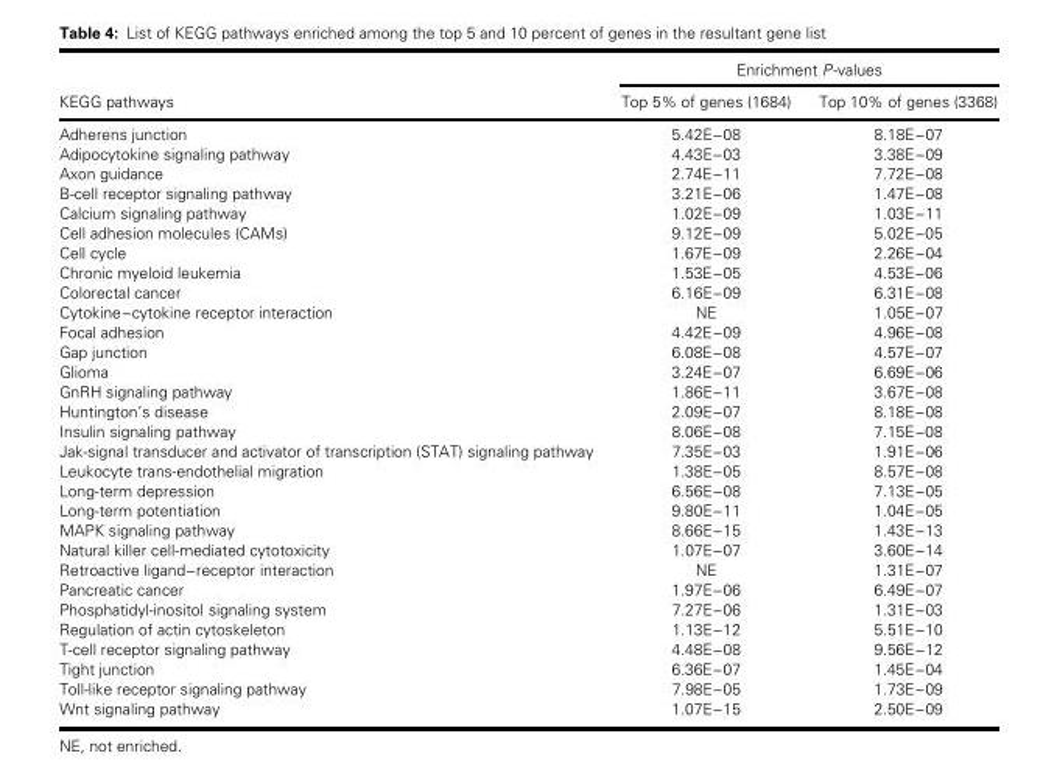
<table><thead><tr><td rowspan="2">KEGG pathways</td><td colspan="2">Enrichment P-values</td></tr><tr><td>Top 5% of genes (1684)</td><td>Top 10% of genes (3368)</td></tr></thead><tbody><tr><td>Adherens junction</td><td>5.42E–08</td><td>8.18E–07</td></tr><tr><td>Adipocytokine signaling pathway</td><td>4.43E–03</td><td>3.38E–09</td></tr><tr><td>Axon guidance</td><td>2.74E–11</td><td>7.72E–08</td></tr><tr><td>B-cell receptor signaling pathway</td><td>3.21E–06</td><td>1.47E–08</td></tr><tr><td>Calcium signaling pathway</td><td>1.02E–09</td><td>1.03E–11</td></tr><tr><td>Cell adhesion molecules (CAMs)</td><td>9.12E–09</td><td>5.02E–05</td></tr><tr><td>Cell cycle</td><td>1.67E–09</td><td>2.26E–04</td></tr><tr><td>Chronic myeloid leukemia</td><td>1.53E–05</td><td>4.53E–06</td></tr><tr><td>Colorectal cancer</td><td>6.16E–09</td><td>6.31E–08</td></tr><tr><td>Cytokine–cytokine receptor interaction</td><td>NE</td><td>1.05E–07</td></tr><tr><td>Focal adhesion</td><td>4.42E–09</td><td>4.96E–08</td></tr><tr><td>Gap junction</td><td>6.08E–08</td><td>4.57E–07</td></tr><tr><td>Glioma</td><td>3.24E–07</td><td>6.69E–06</td></tr><tr><td>GnRH signaling pathway</td><td>1.86E–11</td><td>3.67E–08</td></tr><tr><td>Huntington’s disease</td><td>2.09E–07</td><td>8.18E–08</td></tr><tr><td>Insulin signaling pathway</td><td>8.06E–08</td><td>7.15E–08</td></tr><tr><td>Jak-signal transducer and activator of transcription (STAT) signaling pathway</td><td>7.35E–03</td><td>1.91E–06</td></tr><tr><td>Leukocyte trans-endothelial migration</td><td>1.38E–05</td><td>8.57E–08</td></tr><tr><td>Long-term depression</td><td>6.56E–08</td><td>7.13E–05</td></tr><tr><td>Long-term potentiation</td><td>9.80E–11</td><td>1.04E–05</td></tr><tr><td>MAPK signaling pathway</td><td>8.66E–15</td><td>1.43E–13</td></tr><tr><td>Natural killer cell-mediated cytotoxicity</td><td>1.07E–07</td><td>3.60E–14</td></tr><tr><td>Retroactive ligand–receptor interaction</td><td>NE</td><td>1.31E–07</td></tr><tr><td>Pancreatic cancer</td><td>1.97E–06</td><td>6.49E–07</td></tr><tr><td>Phosphatidyl-inositol signaling system</td><td>7.27E–06</td><td>1.31E–03</td></tr><tr><td>Regulation of actin cytoskeleton</td><td>1.13E–12</td><td>5.51E–10</td></tr><tr><td>T-cell receptor signaling pathway</td><td>4.48E–08</td><td>9.56E–12</td></tr><tr><td>Tight junction</td><td>6.36E–07</td><td>1.45E–04</td></tr><tr><td>Toll-like receptor signaling pathway</td><td>7.98E–05</td><td>1.73E–09</td></tr><tr><td>Wnt signaling pathway</td><td>1.07E–15</td><td>2.50E–09</td></tr></tbody></table>